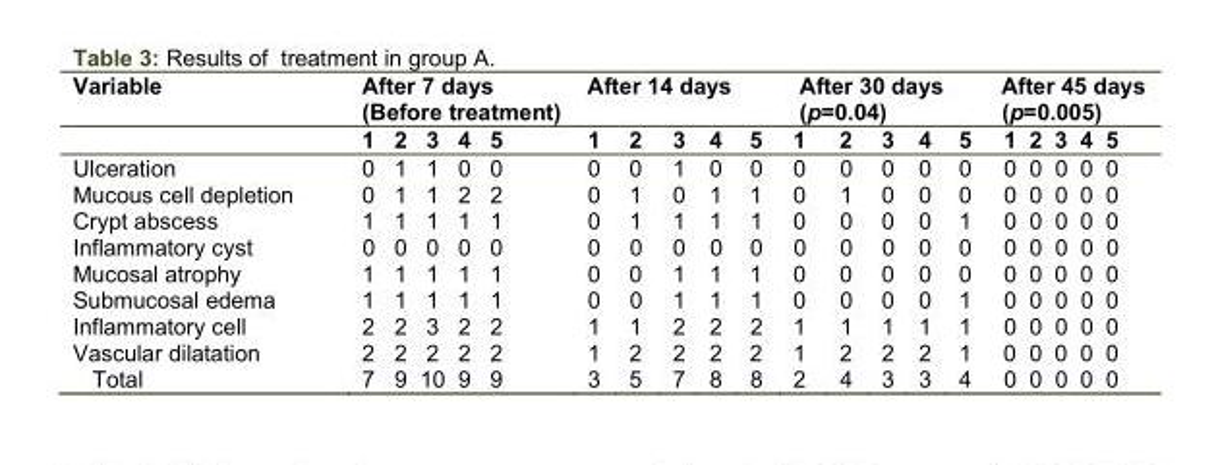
<table><thead><tr><td rowspan="2">Variable</td><td colspan="5">After 7 days (Before treatment)</td><td colspan="5">After 14 days</td><td colspan="5">After 30 days (p=0.04)</td><td colspan="5">After 45 days (p=0.005)</td></tr><tr><td>1</td><td>2</td><td>3</td><td>4</td><td>5</td><td>1</td><td>2</td><td>3</td><td>4</td><td>5</td><td>1</td><td>2</td><td>3</td><td>4</td><td>5</td><td>1</td><td>2</td><td>3</td><td>4</td><td>5</td></tr></thead><tbody><tr><td>Ulceration</td><td>0</td><td>1</td><td>1</td><td>0</td><td>0</td><td>0</td><td>0</td><td>1</td><td>0</td><td>0</td><td>0</td><td>0</td><td>0</td><td>0</td><td>0</td><td>0</td><td>0</td><td>0</td><td>0</td><td>0</td></tr><tr><td>Mucous cell depletion</td><td>0</td><td>1</td><td>1</td><td>2</td><td>2</td><td>0</td><td>1</td><td>0</td><td>1</td><td>1</td><td>0</td><td>1</td><td>0</td><td>0</td><td>0</td><td>0</td><td>0</td><td>0</td><td>0</td><td>0</td></tr><tr><td>Crypt abscess</td><td>1</td><td>1</td><td>1</td><td>1</td><td>1</td><td>0</td><td>1</td><td>1</td><td>1</td><td>1</td><td>0</td><td>0</td><td>0</td><td>0</td><td>1</td><td>0</td><td>0</td><td>0</td><td>0</td><td>0</td></tr><tr><td>Inflammatory cyst</td><td>0</td><td>0</td><td>0</td><td>0</td><td>0</td><td>0</td><td>0</td><td>0</td><td>0</td><td>0</td><td>0</td><td>0</td><td>0</td><td>0</td><td>0</td><td>0</td><td>0</td><td>0</td><td>0</td><td>0</td></tr><tr><td>Mucosal atrophy</td><td>1</td><td>1</td><td>1</td><td>1</td><td>1</td><td>0</td><td>0</td><td>1</td><td>1</td><td>1</td><td>0</td><td>0</td><td>0</td><td>0</td><td>0</td><td>0</td><td>0</td><td>0</td><td>0</td><td>0</td></tr><tr><td>Submucosal edema</td><td>1</td><td>1</td><td>1</td><td>1</td><td>1</td><td>0</td><td>0</td><td>1</td><td>1</td><td>1</td><td>0</td><td>0</td><td>0</td><td>0</td><td>1</td><td>0</td><td>0</td><td>0</td><td>0</td><td>0</td></tr><tr><td>Inflammatory cell</td><td>2</td><td>2</td><td>3</td><td>2</td><td>2</td><td>1</td><td>1</td><td>2</td><td>2</td><td>2</td><td>1</td><td>1</td><td>1</td><td>1</td><td>1</td><td>0</td><td>0</td><td>0</td><td>0</td><td>0</td></tr><tr><td>Vascular dilatation</td><td>2</td><td>2</td><td>2</td><td>2</td><td>2</td><td>1</td><td>2</td><td>2</td><td>2</td><td>2</td><td>1</td><td>2</td><td>2</td><td>2</td><td>1</td><td>0</td><td>0</td><td>0</td><td>0</td><td>0</td></tr><tr><td>Total</td><td>7</td><td>9</td><td>10</td><td>9</td><td>9</td><td>3</td><td>5</td><td>7</td><td>8</td><td>8</td><td>2</td><td>4</td><td>3</td><td>3</td><td>4</td><td>0</td><td>0</td><td>0</td><td>0</td><td>0</td></tr></tbody></table>